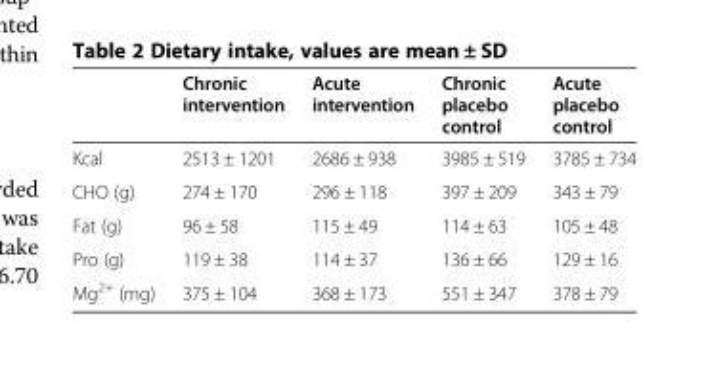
<table><thead><tr><td></td><td>Chronic intervention</td><td>Acute intervention</td><td>Chronic placebo control</td><td>Acute placebo control</td></tr></thead><tbody><tr><td>Kcal</td><td>2513 ± 1201</td><td>2686 ± 938</td><td>3985 ± 519</td><td>3785 ± 734</td></tr><tr><td>CHO (g)</td><td>274 ± 170</td><td>296 ± 118</td><td>397 ± 209</td><td>343 ± 79</td></tr><tr><td>Fat (g)</td><td>96 ± 58</td><td>115 ± 49</td><td>114 ± 63</td><td>105 ± 48</td></tr><tr><td>Pro (g)</td><td>119 ± 38</td><td>114 ± 37</td><td>136 ± 66</td><td>129 ± 16</td></tr><tr><td>Mg<sup>2+</sup> (mg)</td><td>375 ± 104</td><td>368 ± 173</td><td>551 ± 347</td><td>378 ± 79</td></tr></tbody></table>